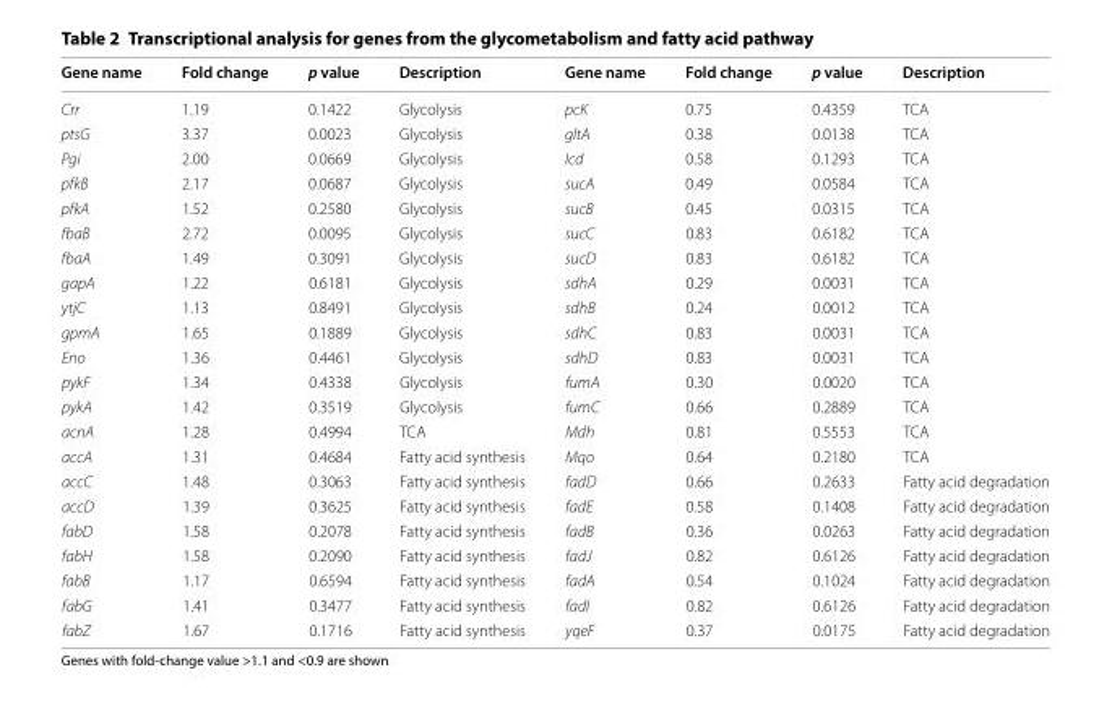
<table><thead><tr><td>Gene name</td><td>Fold change</td><td>p value</td><td>Description</td><td>Gene name</td><td>Fold change</td><td>p value</td><td>Description</td></tr></thead><tbody><tr><td>Crr</td><td>1.19</td><td>0.1422</td><td>Glycolysis</td><td>pcK</td><td>0.75</td><td>0.4359</td><td>TCA</td></tr><tr><td>ptsG</td><td>3.37</td><td>0.0023</td><td>Glycolysis</td><td>gltA</td><td>0.38</td><td>0.0138</td><td>TCA</td></tr><tr><td>Pgi</td><td>2.00</td><td>0.0669</td><td>Glycolysis</td><td>Icd</td><td>0.58</td><td>0.1293</td><td>TCA</td></tr><tr><td>pfkB</td><td>2.17</td><td>0.0687</td><td>Glycolysis</td><td>sucA</td><td>0.49</td><td>0.0584</td><td>TCA</td></tr><tr><td>pfkA</td><td>1.52</td><td>0.2580</td><td>Glycolysis</td><td>sucB</td><td>0.45</td><td>0.0315</td><td>TCA</td></tr><tr><td>fbaB</td><td>2.72</td><td>0.0095</td><td>Glycolysis</td><td>sucC</td><td>0.83</td><td>0.6182</td><td>TCA</td></tr><tr><td>fbaA</td><td>1.49</td><td>0.3091</td><td>Glycolysis</td><td>sucD</td><td>0.83</td><td>0.6182</td><td>TCA</td></tr><tr><td>gapA</td><td>1.22</td><td>0.6181</td><td>Glycolysis</td><td>sdhA</td><td>0.29</td><td>0.0031</td><td>TCA</td></tr><tr><td>ytjC</td><td>1.13</td><td>0.8491</td><td>Glycolysis</td><td>sdhB</td><td>0.24</td><td>0.0012</td><td>TCA</td></tr><tr><td>gpmA</td><td>1.65</td><td>0.1889</td><td>Glycolysis</td><td>sdhC</td><td>0.83</td><td>0.0031</td><td>TCA</td></tr><tr><td>Eno</td><td>1.36</td><td>0.4461</td><td>Glycolysis</td><td>sdhD</td><td>0.83</td><td>0.0031</td><td>TCA</td></tr><tr><td>pykF</td><td>1.34</td><td>0.4338</td><td>Glycolysis</td><td>fumA</td><td>0.30</td><td>0.0020</td><td>TCA</td></tr><tr><td>pykA</td><td>1.42</td><td>0.3519</td><td>Glycolysis</td><td>fumC</td><td>0.66</td><td>0.2889</td><td>TCA</td></tr><tr><td>acnA</td><td>1.28</td><td>0.4994</td><td>TCA</td><td>Mdh</td><td>0.81</td><td>0.5553</td><td>TCA</td></tr><tr><td>accA</td><td>1.31</td><td>0.4684</td><td>Fatty acid synthesis</td><td>Mqo</td><td>0.64</td><td>0.2180</td><td>TCA</td></tr><tr><td>accC</td><td>1.48</td><td>0.3063</td><td>Fatty acid synthesis</td><td>fadD</td><td>0.66</td><td>0.2633</td><td>Fatty acid degradation</td></tr><tr><td>accD</td><td>1.39</td><td>0.3625</td><td>Fatty acid synthesis</td><td>fadE</td><td>0.58</td><td>0.1408</td><td>Fatty acid degradation</td></tr><tr><td>fabD</td><td>1.58</td><td>0.2078</td><td>Fatty acid synthesis</td><td>fadB</td><td>0.36</td><td>0.0263</td><td>Fatty acid degradation</td></tr><tr><td>fabH</td><td>1.58</td><td>0.2090</td><td>Fatty acid synthesis</td><td>fadJ</td><td>0.82</td><td>0.6126</td><td>Fatty acid degradation</td></tr><tr><td>fabB</td><td>1.17</td><td>0.6594</td><td>Fatty acid synthesis</td><td>fadA</td><td>0.54</td><td>0.1024</td><td>Fatty acid degradation</td></tr><tr><td>fabG</td><td>1.41</td><td>0.3477</td><td>Fatty acid synthesis</td><td>fadI</td><td>0.82</td><td>0.6126</td><td>Fatty acid degradation</td></tr><tr><td>fabZ</td><td>1.67</td><td>0.1716</td><td>Fatty acid synthesis</td><td>yqeF</td><td>0.37</td><td>0.0175</td><td>Fatty acid degradation</td></tr></tbody></table>